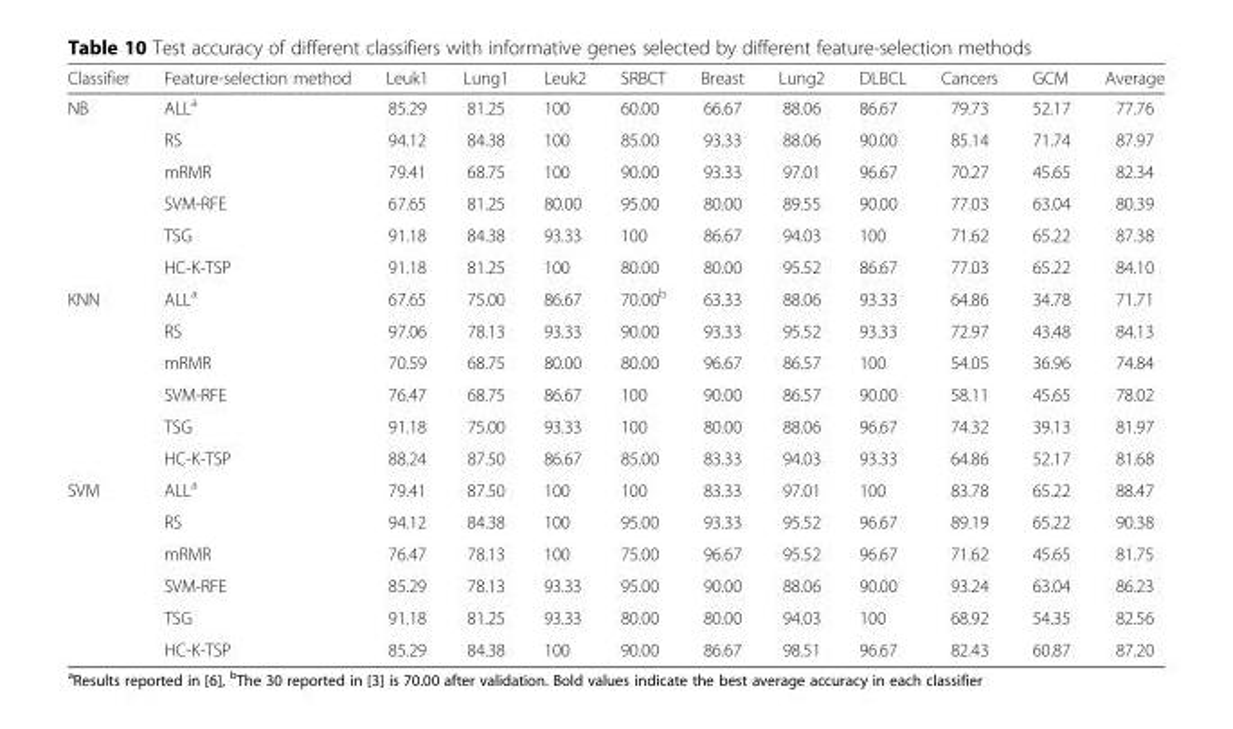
<table><thead><tr><td>Classifier</td><td>Feature-selection method</td><td>Leuk1</td><td>Lung1</td><td>Leuk2</td><td>SRBCT</td><td>Breast</td><td>Lung2</td><td>DLBCL</td><td>Cancers</td><td>GCM</td><td>Average</td></tr></thead><tbody><tr><td rowspan="6">NB</td><td>ALL<sup>a</sup></td><td>85.29</td><td>81.25</td><td>100</td><td>60.00</td><td>66.67</td><td>88.06</td><td>86.67</td><td>79.73</td><td>52.17</td><td>77.76</td></tr><tr><td>RS</td><td>94.12</td><td>84.38</td><td>100</td><td>85.00</td><td>93.33</td><td>88.06</td><td>90.00</td><td>85.14</td><td>71.74</td><td>87.97</td></tr><tr><td>mRMR</td><td>79.41</td><td>68.75</td><td>100</td><td>90.00</td><td>93.33</td><td>97.01</td><td>96.67</td><td>70.27</td><td>45.65</td><td>82.34</td></tr><tr><td>SVM-RFE</td><td>67.65</td><td>81.25</td><td>80.00</td><td>95.00</td><td>80.00</td><td>89.55</td><td>90.00</td><td>77.03</td><td>63.04</td><td>80.39</td></tr><tr><td>TSG</td><td>91.18</td><td>84.38</td><td>93.33</td><td>100</td><td>86.67</td><td>94.03</td><td>100</td><td>71.62</td><td>65.22</td><td>87.38</td></tr><tr><td>HC-K-TSP</td><td>91.18</td><td>81.25</td><td>100</td><td>80.00</td><td>80.00</td><td>95.52</td><td>86.67</td><td>77.03</td><td>65.22</td><td>84.10</td></tr><tr><td rowspan="6">KNN</td><td>ALL<sup>a</sup></td><td>67.65</td><td>75.00</td><td>86.67</td><td>70.00<sup>b</sup></td><td>63.33</td><td>88.06</td><td>93.33</td><td>64.86</td><td>34.78</td><td>71.71</td></tr><tr><td>RS</td><td>97.06</td><td>78.13</td><td>93.33</td><td>90.00</td><td>93.33</td><td>95.52</td><td>93.33</td><td>72.97</td><td>43.48</td><td>84.13</td></tr><tr><td>mRMR</td><td>70.59</td><td>68.75</td><td>80.00</td><td>80.00</td><td>96.67</td><td>86.57</td><td>100</td><td>54.05</td><td>36.96</td><td>74.84</td></tr><tr><td>SVM-RFE</td><td>76.47</td><td>68.75</td><td>86.67</td><td>100</td><td>90.00</td><td>86.57</td><td>90.00</td><td>58.11</td><td>45.65</td><td>78.02</td></tr><tr><td>TSG</td><td>91.18</td><td>75.00</td><td>93.33</td><td>100</td><td>80.00</td><td>88.06</td><td>96.67</td><td>74.32</td><td>39.13</td><td>81.97</td></tr><tr><td>HC-K-TSP</td><td>88.24</td><td>87.50</td><td>86.67</td><td>85.00</td><td>83.33</td><td>94.03</td><td>93.33</td><td>64.86</td><td>52.17</td><td>81.68</td></tr><tr><td rowspan="6">SVM</td><td>ALL<sup>a</sup></td><td>79.41</td><td>87.50</td><td>100</td><td>100</td><td>83.33</td><td>97.01</td><td>100</td><td>83.78</td><td>65.22</td><td>88.47</td></tr><tr><td>RS</td><td>94.12</td><td>84.38</td><td>100</td><td>95.00</td><td>93.33</td><td>95.52</td><td>96.67</td><td>89.19</td><td>65.22</td><td>90.38</td></tr><tr><td>mRMR</td><td>76.47</td><td>78.13</td><td>100</td><td>75.00</td><td>96.67</td><td>95.52</td><td>96.67</td><td>71.62</td><td>45.65</td><td>81.75</td></tr><tr><td>SVM-RFE</td><td>85.29</td><td>78.13</td><td>93.33</td><td>95.00</td><td>90.00</td><td>88.06</td><td>90.00</td><td>93.24</td><td>63.04</td><td>86.23</td></tr><tr><td>TSG</td><td>91.18</td><td>81.25</td><td>93.33</td><td>80.00</td><td>80.00</td><td>94.03</td><td>100</td><td>68.92</td><td>54.35</td><td>82.56</td></tr><tr><td>HC-K-TSP</td><td>85.29</td><td>84.38</td><td>100</td><td>90.00</td><td>86.67</td><td>98.51</td><td>96.67</td><td>82.43</td><td>60.87</td><td>87.20</td></tr></tbody></table>